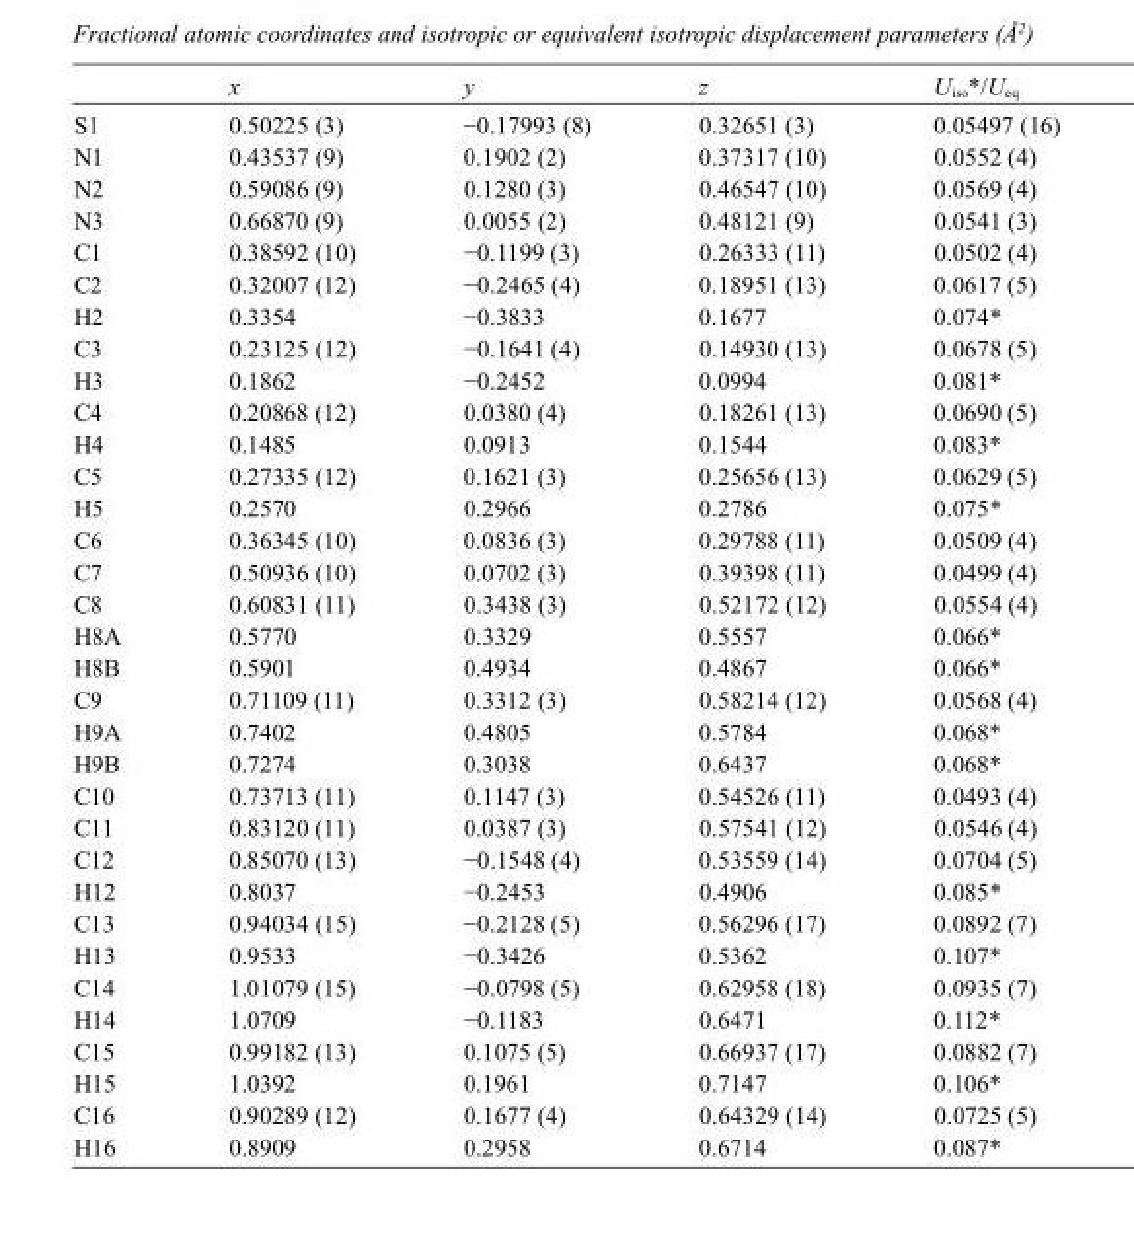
<table><thead><tr><td></td><td>x</td><td>y</td><td>z</td><td>U<sub>iso</sub>*/U<sub>eq</sub></td></tr></thead><tbody><tr><td>S1</td><td>0.50225 (3)</td><td>−0.17993 (8)</td><td>0.32651 (3)</td><td>0.05497 (16)</td></tr><tr><td>N1</td><td>0.43537 (9)</td><td>0.1902 (2)</td><td>0.37317 (10)</td><td>0.0552 (4)</td></tr><tr><td>N2</td><td>0.59086 (9)</td><td>0.1280 (3)</td><td>0.46547 (10)</td><td>0.0569 (4)</td></tr><tr><td>N3</td><td>0.66870 (9)</td><td>0.0055 (2)</td><td>0.48121 (9)</td><td>0.0541 (3)</td></tr><tr><td>C1</td><td>0.38592 (10)</td><td>−0.1199 (3)</td><td>0.26333 (11)</td><td>0.0502 (4)</td></tr><tr><td>C2</td><td>0.32007 (12)</td><td>−0.2465 (4)</td><td>0.18951 (13)</td><td>0.0617 (5)</td></tr><tr><td>H2</td><td>0.3354</td><td>−0.3833</td><td>0.1677</td><td>0.074*</td></tr><tr><td>C3</td><td>0.23125 (12)</td><td>−0.1641 (4)</td><td>0.14930 (13)</td><td>0.0678 (5)</td></tr><tr><td>H3</td><td>0.1862</td><td>−0.2452</td><td>0.0994</td><td>0.081*</td></tr><tr><td>C4</td><td>0.20868 (12)</td><td>0.0380 (4)</td><td>0.18261 (13)</td><td>0.0690 (5)</td></tr><tr><td>H4</td><td>0.1485</td><td>0.0913</td><td>0.1544</td><td>0.083*</td></tr><tr><td>C5</td><td>0.27335 (12)</td><td>0.1621 (3)</td><td>0.25656 (13)</td><td>0.0629 (5)</td></tr><tr><td>H5</td><td>0.2570</td><td>0.2966</td><td>0.2786</td><td>0.075*</td></tr><tr><td>C6</td><td>0.36345 (10)</td><td>0.0836 (3)</td><td>0.29788 (11)</td><td>0.0509 (4)</td></tr><tr><td>C7</td><td>0.50936 (10)</td><td>0.0702 (3)</td><td>0.39398 (11)</td><td>0.0499 (4)</td></tr><tr><td>C8</td><td>0.60831 (11)</td><td>0.3438 (3)</td><td>0.52172 (12)</td><td>0.0554 (4)</td></tr><tr><td>H8A</td><td>0.5770</td><td>0.3329</td><td>0.5557</td><td>0.066*</td></tr><tr><td>H8B</td><td>0.5901</td><td>0.4934</td><td>0.4867</td><td>0.066*</td></tr><tr><td>C9</td><td>0.71109 (11)</td><td>0.3312 (3)</td><td>0.58214 (12)</td><td>0.0568 (4)</td></tr><tr><td>H9A</td><td>0.7402</td><td>0.4805</td><td>0.5784</td><td>0.068*</td></tr><tr><td>H9B</td><td>0.7274</td><td>0.3038</td><td>0.6437</td><td>0.068*</td></tr><tr><td>C10</td><td>0.73713 (11)</td><td>0.1147 (3)</td><td>0.54526 (11)</td><td>0.0493 (4)</td></tr><tr><td>C11</td><td>0.83120 (11)</td><td>0.0387 (3)</td><td>0.57541 (12)</td><td>0.0546 (4)</td></tr><tr><td>C12</td><td>0.85070 (13)</td><td>−0.1548 (4)</td><td>0.53559 (14)</td><td>0.0704 (5)</td></tr><tr><td>H12</td><td>0.8037</td><td>−0.2453</td><td>0.4906</td><td>0.085*</td></tr><tr><td>C13</td><td>0.94034 (15)</td><td>−0.2128 (5)</td><td>0.56296 (17)</td><td>0.0892 (7)</td></tr><tr><td>H13</td><td>0.9533</td><td>−0.3426</td><td>0.5362</td><td>0.107*</td></tr><tr><td>C14</td><td>1.01079 (15)</td><td>−0.0798 (5)</td><td>0.62958 (18)</td><td>0.0935 (7)</td></tr><tr><td>H14</td><td>1.0709</td><td>−0.1183</td><td>0.6471</td><td>0.112*</td></tr><tr><td>C15</td><td>0.99182 (13)</td><td>0.1075 (5)</td><td>0.66937 (17)</td><td>0.0882 (7)</td></tr><tr><td>H15</td><td>1.0392</td><td>0.1961</td><td>0.7147</td><td>0.106*</td></tr><tr><td>C16</td><td>0.90289 (12)</td><td>0.1677 (4)</td><td>0.64329 (14)</td><td>0.0725 (5)</td></tr><tr><td>H16</td><td>0.8909</td><td>0.2958</td><td>0.6714</td><td>0.087*</td></tr></tbody></table>